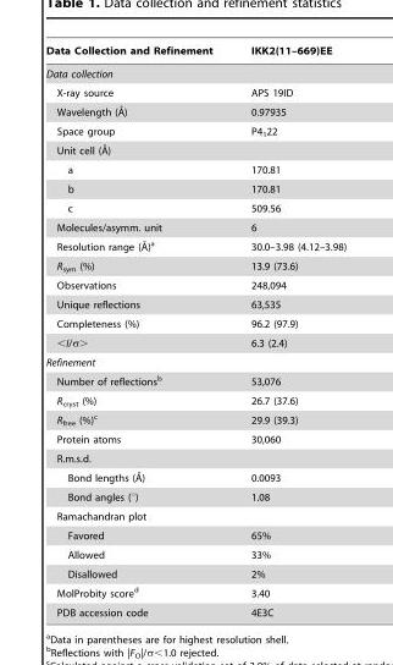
<table><thead><tr><td>Data Collection and Refinement</td><td>IKK2(11–669)EE</td></tr></thead><tbody><tr><td colspan="2">Data collection</td></tr><tr><td>X-ray source</td><td>APS 19ID</td></tr><tr><td>Wavelength (A˚)</td><td>0.97935</td></tr><tr><td>Space group</td><td>P4<sub>1</sub>22</td></tr><tr><td colspan="2">Unit cell (A˚)</td></tr><tr><td>a</td><td>170.81</td></tr><tr><td>b</td><td>170.81</td></tr><tr><td>c</td><td>509.56</td></tr><tr><td>Molecules/asymm. unit</td><td>6</td></tr><tr><td>Resolution range (A˚)a</td><td>30.0–3.98 (4.12–3.98)</td></tr><tr><td>R<sub>sym</sub> (%)</td><td>13.9 (73.6)</td></tr><tr><td>Observations</td><td>248,094</td></tr><tr><td>Unique reflections</td><td>63,535</td></tr><tr><td>Completeness (%)</td><td>96.2 (97.9)</td></tr><tr><td>&lt;I/σ&gt;</td><td>6.3 (2.4)</td></tr><tr><td colspan="2">Refinement</td></tr><tr><td>Number of reflections<sup>b</sup></td><td>53,076</td></tr><tr><td>R<sub>cryst</sub> (%)</td><td>26.7 (37.6)</td></tr><tr><td>R<sub>free</sub> (%)<sup>c</sup></td><td>29.9 (39.3)</td></tr><tr><td>Protein atoms</td><td>30,060</td></tr><tr><td colspan="2">R.m.s.d.</td></tr><tr><td>Bond lengths (A˚)</td><td>0.0093</td></tr><tr><td>Bond angles (°)</td><td>1.08</td></tr><tr><td colspan="2">Ramachandran plot</td></tr><tr><td>Favored</td><td>65%</td></tr><tr><td>Allowed</td><td>33%</td></tr><tr><td>Disallowed</td><td>2%</td></tr><tr><td>MolProbity score<sup>d</sup></td><td>3.40</td></tr><tr><td>PDB accession code</td><td>4E3C</td></tr></tbody></table>